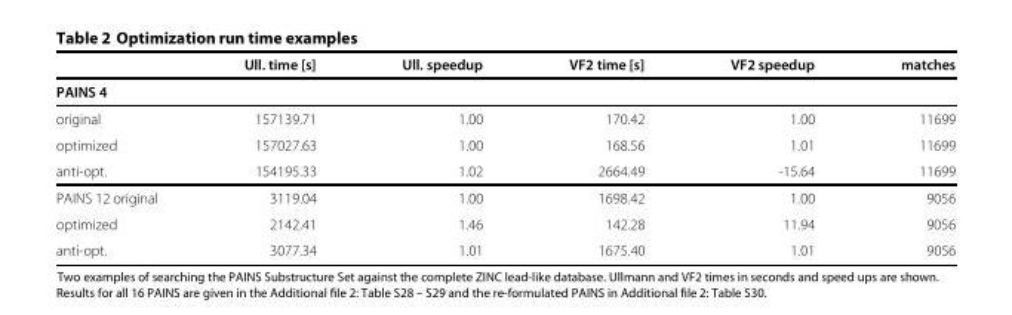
<table><thead><tr><td></td><td>Ull. time [s]</td><td>Ull. speedup</td><td>VF2 time [s]</td><td>VF2 speedup</td><td>matches</td></tr></thead><tbody><tr><td colspan="6">PAINS 4</td></tr><tr><td>original</td><td>157139.71</td><td>1.00</td><td>170.42</td><td>1.00</td><td>11699</td></tr><tr><td>optimized</td><td>157027.63</td><td>1.00</td><td>168.56</td><td>1.01</td><td>11699</td></tr><tr><td>anti-opt.</td><td>154195.33</td><td>1.02</td><td>2664.49</td><td>-15.64</td><td>11699</td></tr><tr><td>PAINS 12 original</td><td>3119.04</td><td>1.00</td><td>1698.42</td><td>1.00</td><td>9056</td></tr><tr><td>optimized</td><td>2142.41</td><td>1.46</td><td>142.28</td><td>11.94</td><td>9056</td></tr><tr><td>anti-opt.</td><td>3077.34</td><td>1.01</td><td>1675.40</td><td>1.01</td><td>9056</td></tr></tbody></table>